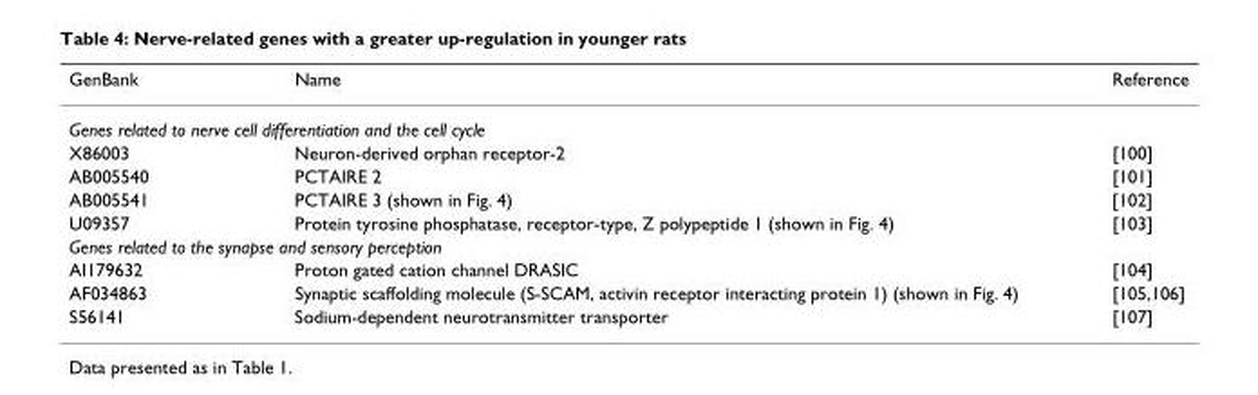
<table><thead><tr><td>GenBank</td><td>Name</td><td>Reference</td></tr></thead><tbody><tr><td colspan="3">Genes related to nerve cell differentiation and the cell cycle</td></tr><tr><td>X86003</td><td>Neuron-derived orphan receptor-2</td><td>[100]</td></tr><tr><td>AB005540</td><td>PCTAIRE 2</td><td>[101]</td></tr><tr><td>AB005541</td><td>PCTAIRE 3 (shown in Fig. 4)</td><td>[102]</td></tr><tr><td>U09357</td><td>Protein tyrosine phosphatase, receptor-type, Z polypeptide 1 (shown in Fig. 4)</td><td>[103]</td></tr><tr><td colspan="3">Genes related to the synapse and sensory perception</td></tr><tr><td>AI179632</td><td>Proton gated cation channel DRASIC</td><td>[104]</td></tr><tr><td>AF034863</td><td>Synaptic scaffolding molecule (S-SCAM, activin receptor interacting protein 1) (shown in Fig. 4)</td><td>[105,106]</td></tr><tr><td>S56141</td><td>Sodium-dependent neurotransmitter transporter</td><td>[107]</td></tr></tbody></table>